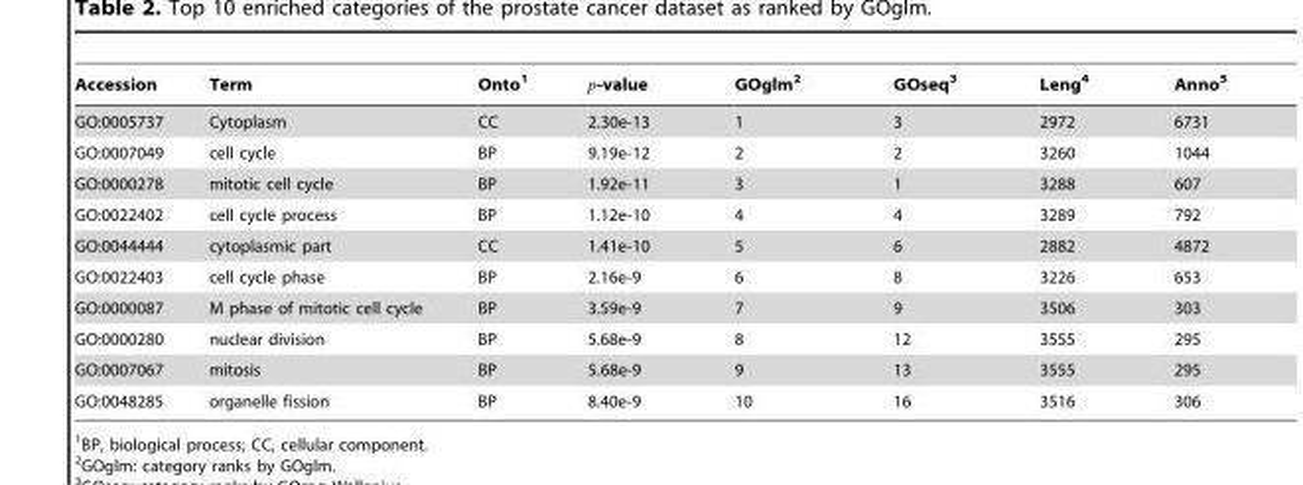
<table><thead><tr><td>Accession</td><td>Term</td><td>Onto<sup>1</sup></td><td>p-value</td><td>GOglm<sup>2</sup></td><td>GOseq<sup>3</sup></td><td>Leng<sup>4</sup></td><td>Anno<sup>5</sup></td></tr></thead><tbody><tr><td>GO:0005737</td><td>Cytoplasm</td><td>CC</td><td>2.30e-13</td><td>1</td><td>3</td><td>2972</td><td>6731</td></tr><tr><td>GO:0007049</td><td>cell cycle</td><td>BP</td><td>9.19e-12</td><td>2</td><td>2</td><td>3260</td><td>1044</td></tr><tr><td>GO:0000278</td><td>mitotic cell cycle</td><td>BP</td><td>1.92e-11</td><td>3</td><td>1</td><td>3288</td><td>607</td></tr><tr><td>GO:0022402</td><td>cell cycle process</td><td>BP</td><td>1.12e-10</td><td>4</td><td>4</td><td>3289</td><td>792</td></tr><tr><td>GO:0044444</td><td>cytoplasmic part</td><td>CC</td><td>1.41e-10</td><td>5</td><td>6</td><td>2882</td><td>4872</td></tr><tr><td>GO:0022403</td><td>cell cycle phase</td><td>BP</td><td>2.16e-9</td><td>6</td><td>8</td><td>3226</td><td>653</td></tr><tr><td>GO:0000087</td><td>M phase of mitotic cell cycle</td><td>BP</td><td>3.59e-9</td><td>7</td><td>9</td><td>3506</td><td>303</td></tr><tr><td>GO:0000280</td><td>nuclear division</td><td>BP</td><td>5.68e-9</td><td>8</td><td>12</td><td>3555</td><td>295</td></tr><tr><td>GO:0007067</td><td>mitosis</td><td>BP</td><td>5.68e-9</td><td>9</td><td>13</td><td>3555</td><td>295</td></tr><tr><td>GO:0048285</td><td>organelle fission</td><td>BP</td><td>8.40e-9</td><td>10</td><td>16</td><td>3516</td><td>306</td></tr></tbody></table>